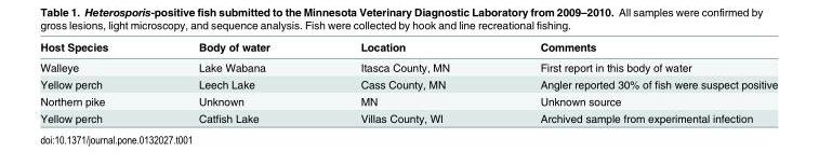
<table><thead><tr><td>Host Species</td><td>Body of water</td><td>Location</td><td>Comments</td></tr></thead><tbody><tr><td>Walleye</td><td>Lake Wabana</td><td>Itasca County, MN</td><td>First report in this body of water</td></tr><tr><td>Yellow perch</td><td>Leech Lake</td><td>Cass County, MN</td><td>Angler reported 30% of fish were suspect positive</td></tr><tr><td>Northern pike</td><td>Unknown</td><td>MN</td><td>Unknown source</td></tr><tr><td>Yellow perch</td><td>Catfish Lake</td><td>Villas County, WI</td><td>Archived sample from experimental infection</td></tr></tbody></table>